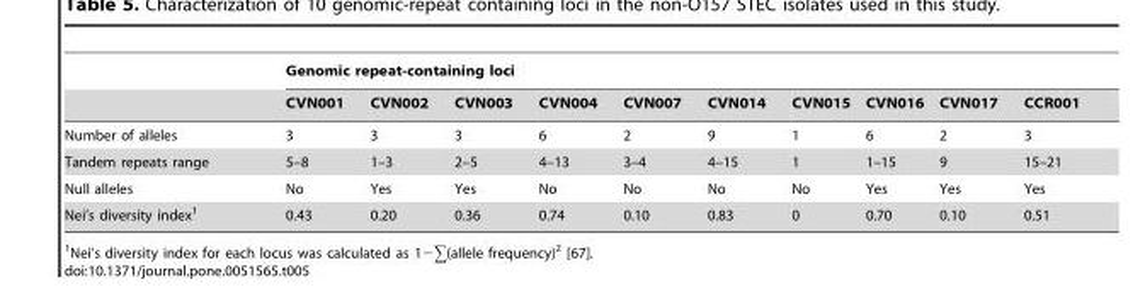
<table><thead><tr><td rowspan="2"></td><td colspan="10">Genomic repeat-containing loci</td></tr><tr><td>CVN001</td><td>CVN002</td><td>CVN003</td><td>CVN004</td><td>CVN007</td><td>CVN014</td><td>CVN015</td><td>CVN016</td><td>CVN017</td><td>CCR001</td></tr></thead><tbody><tr><td>Number of alleles</td><td>3</td><td>3</td><td>3</td><td>6</td><td>2</td><td>9</td><td>1</td><td>6</td><td>2</td><td>3</td></tr><tr><td>Tandem repeats range</td><td>5–8</td><td>1–3</td><td>2–5</td><td>4–13</td><td>3–4</td><td>4–15</td><td>1</td><td>1–15</td><td>9</td><td>15–21</td></tr><tr><td>Null alleles</td><td>No</td><td>Yes</td><td>Yes</td><td>No</td><td>No</td><td>No</td><td>No</td><td>Yes</td><td>Yes</td><td>Yes</td></tr><tr><td>Nei’s diversity index<sup>1</sup></td><td>0.43</td><td>0.20</td><td>0.36</td><td>0.74</td><td>0.10</td><td>0.83</td><td>0</td><td>0.70</td><td>0.10</td><td>0.51</td></tr></tbody></table>